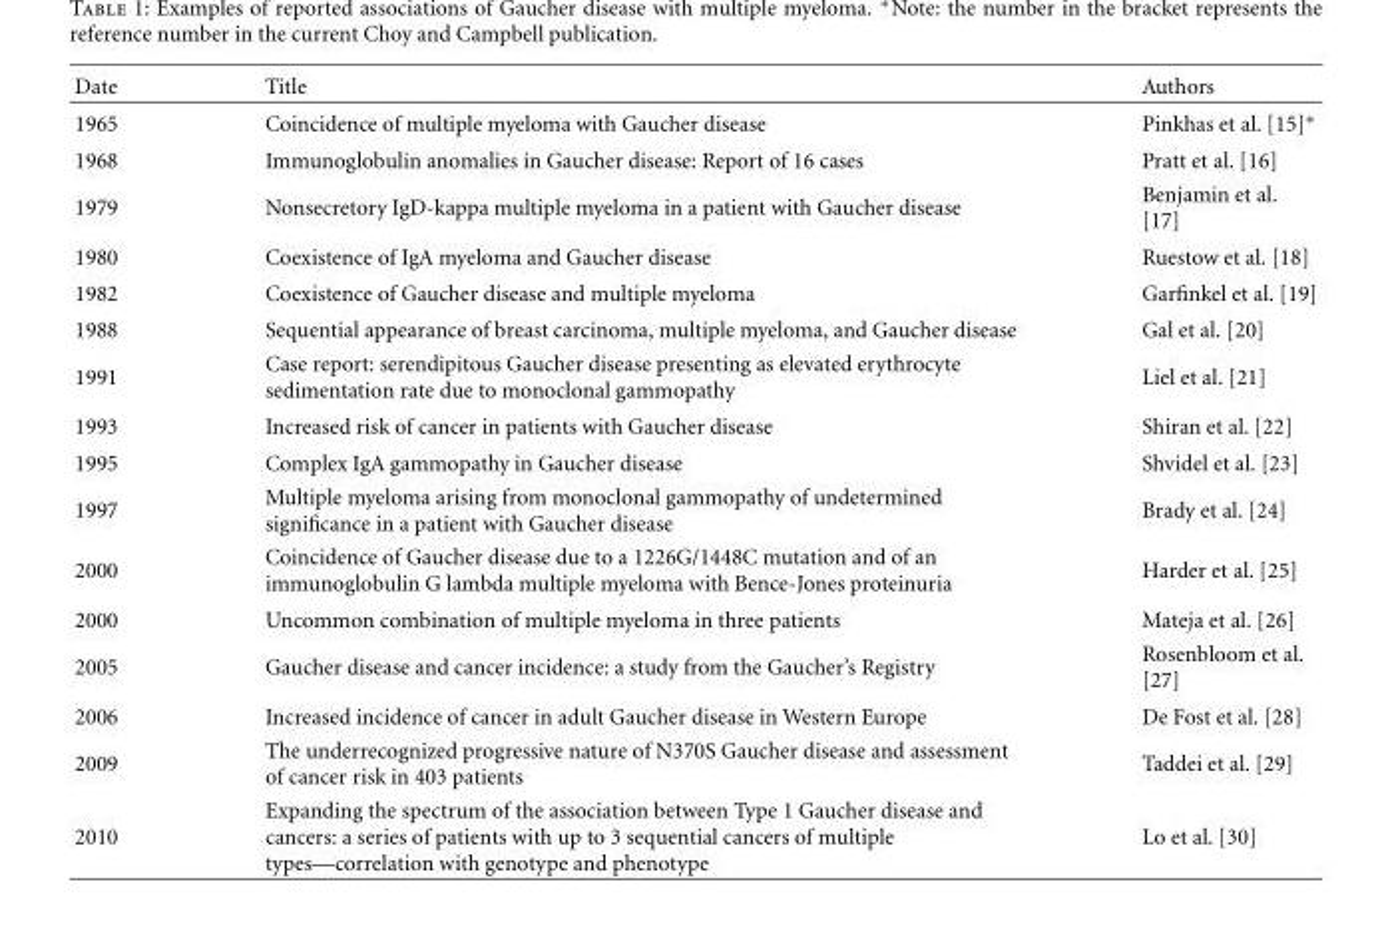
<table><thead><tr><td>Date</td><td>Title</td><td>Authors</td></tr></thead><tbody><tr><td>1965</td><td>Coincidence of multiple myeloma with Gaucher disease</td><td>Pinkhas et al. [15]∗</td></tr><tr><td>1968</td><td>Immunoglobulin anomalies in Gaucher disease: Report of 16 cases</td><td>Pratt et al. [16]</td></tr><tr><td>1979</td><td>Nonsecretory IgD-kappa multiple myeloma in a patient with Gaucher disease</td><td>Benjamin et al. [17]</td></tr><tr><td>1980</td><td>Coexistence of IgA myeloma and Gaucher disease</td><td>Ruestow et al. [18]</td></tr><tr><td>1982</td><td>Coexistence of Gaucher disease and multiple myeloma</td><td>Garfinkel et al. [19]</td></tr><tr><td>1988</td><td>Sequential appearance of breast carcinoma, multiple myeloma, and Gaucher disease</td><td>Gal et al. [20]</td></tr><tr><td>1991</td><td>Case report: serendipitous Gaucher disease presenting as elevated erythrocyte sedimentation rate due to monoclonal gammopathy</td><td>Liel et al. [21]</td></tr><tr><td>1993</td><td>Increased risk of cancer in patients with Gaucher disease</td><td>Shiran et al. [22]</td></tr><tr><td>1995</td><td>Complex IgA gammopathy in Gaucher disease</td><td>Shvidel et al. [23]</td></tr><tr><td>1997</td><td>Multiple myeloma arising from monoclonal gammopathy of undetermined significance in a patient with Gaucher disease</td><td>Brady et al. [24]</td></tr><tr><td>2000</td><td>Coincidence of Gaucher disease due to a 1226G/1448C mutation and of an immunoglobulin G lambda multiple myeloma with Bence-Jones proteinuria</td><td>Harder et al. [25]</td></tr><tr><td>2000</td><td>Uncommon combination of multiple myeloma in three patients</td><td>Mateja et al. [26]</td></tr><tr><td>2005</td><td>Gaucher disease and cancer incidence: a study from the Gaucher’s Registry</td><td>Rosenbloom et al. [27]</td></tr><tr><td>2006</td><td>Increased incidence of cancer in adult Gaucher disease in Western Europe</td><td>De Fost et al. [28]</td></tr><tr><td>2009</td><td>The underrecognized progressive nature of N370S Gaucher disease and assessment of cancer risk in 403 patients</td><td>Taddei et al. [29]</td></tr><tr><td>2010</td><td>Expanding the spectrum of the association between Type 1 Gaucher disease and cancers: a series of patients with up to 3 sequential cancers of multiple types—correlation with genotype and phenotype</td><td>Lo et al. [30]</td></tr></tbody></table>